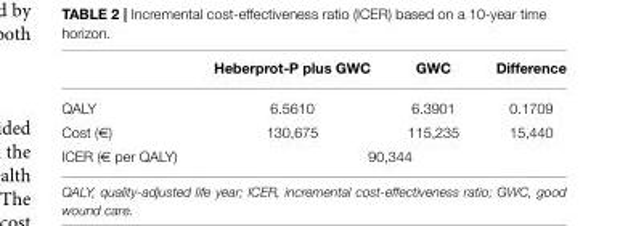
<table><thead><tr><td></td><td>Heberprot-P plus GWC</td><td>GWC</td><td>Difference</td></tr></thead><tbody><tr><td>QALY</td><td>6.5610</td><td>6.3901</td><td>0.1709</td></tr><tr><td>Cost (€)</td><td>130,675</td><td>115,235</td><td>15,440</td></tr><tr><td>ICER (€ per QALY)</td><td colspan="3">90,344</td></tr></tbody></table>